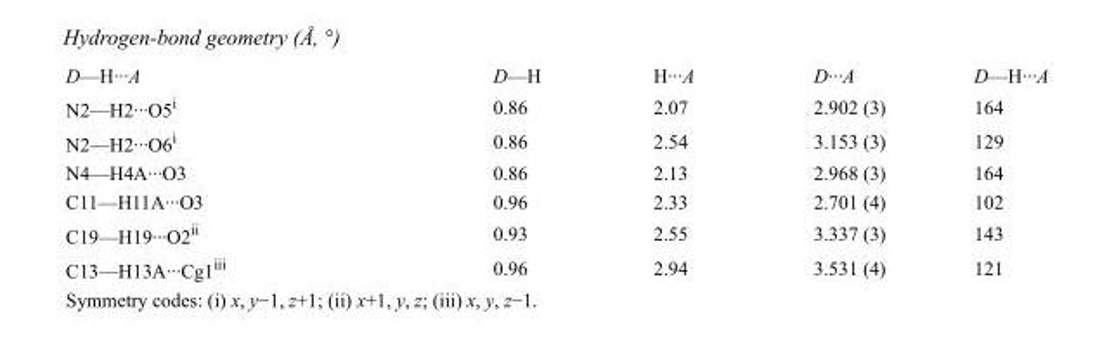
<table><tbody><tr><td>D—H···A</td><td>D—H</td><td>H···A</td><td>D···A</td><td>D—H···A</td></tr><tr><td>N2—H2···O5<sup>i</sup></td><td>0.86</td><td>2.07</td><td>2.902 (3)</td><td>164</td></tr><tr><td>N2—H2···O6<sup>i</sup></td><td>0.86</td><td>2.54</td><td>3.153 (3)</td><td>129</td></tr><tr><td>N4—H4A···O3</td><td>0.86</td><td>2.13</td><td>2.968 (3)</td><td>164</td></tr><tr><td>C11—H11A···O3</td><td>0.96</td><td>2.33</td><td>2.701 (4)</td><td>102</td></tr><tr><td>C19—H19···O2<sup>ii</sup></td><td>0.93</td><td>2.55</td><td>3.337 (3)</td><td>143</td></tr><tr><td>C13—H13A···Cg1<sup>iii</sup></td><td>0.96</td><td>2.94</td><td>3.531 (4)</td><td>121</td></tr></tbody></table>